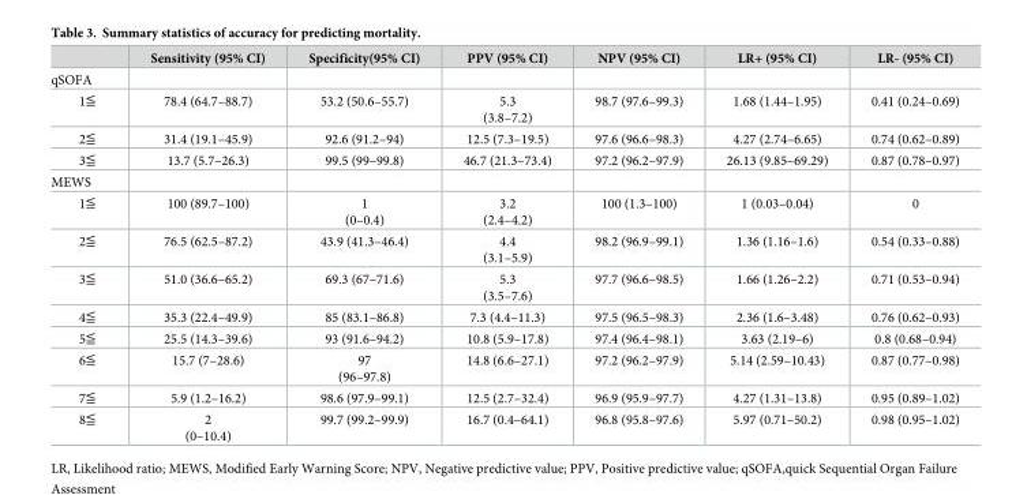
<table><thead><tr><td></td><td>Sensitivity (95% CI)</td><td>Specificity(95% CI)</td><td>PPV (95% CI)</td><td>NPV (95% CI)</td><td>LR+ (95% CI)</td><td>LR- (95% CI)</td></tr></thead><tbody><tr><td colspan="7">qSOFA</td></tr><tr><td>1≦</td><td>78.4 (64.7–88.7)</td><td>53.2 (50.6–55.7)</td><td>5.3 (3.8–7.2)</td><td>98.7 (97.6–99.3)</td><td>1.68 (1.44–1.95)</td><td>0.41 (0.24–0.69)</td></tr><tr><td>2≦</td><td>31.4 (19.1–45.9)</td><td>92.6 (91.2–94)</td><td>12.5 (7.3–19.5)</td><td>97.6 (96.6–98.3)</td><td>4.27 (2.74–6.65)</td><td>0.74 (0.62–0.89)</td></tr><tr><td>3≦</td><td>13.7 (5.7–26.3)</td><td>99.5 (99–99.8)</td><td>46.7 (21.3–73.4)</td><td>97.2 (96.2–97.9)</td><td>26.13 (9.85–69.29)</td><td>0.87 (0.78–0.97)</td></tr><tr><td colspan="7">MEWS</td></tr><tr><td>1≦</td><td>100 (89.7–100)</td><td>1 (0–0.4)</td><td>3.2 (2.4–4.2)</td><td>100 (1.3–100)</td><td>1 (0.03–0.04)</td><td>0</td></tr><tr><td>2≦</td><td>76.5 (62.5–87.2)</td><td>43.9 (41.3–46.4)</td><td>4.4 (3.1–5.9)</td><td>98.2 (96.9–99.1)</td><td>1.36 (1.16–1.6)</td><td>0.54 (0.33–0.88)</td></tr><tr><td>3≦</td><td>51.0 (36.6–65.2)</td><td>69.3 (67–71.6)</td><td>5.3 (3.5–7.6)</td><td>97.7 (96.6–98.5)</td><td>1.66 (1.26–2.2)</td><td>0.71 (0.53–0.94)</td></tr><tr><td>4≦</td><td>35.3 (22.4–49.9)</td><td>85 (83.1–86.8)</td><td>7.3 (4.4–11.3)</td><td>97.5 (96.5–98.3)</td><td>2.36 (1.6–3.48)</td><td>0.76 (0.62–0.93)</td></tr><tr><td>5≦</td><td>25.5 (14.3–39.6)</td><td>93 (91.6–94.2)</td><td>10.8 (5.9–17.8)</td><td>97.4 (96.4–98.1)</td><td>3.63 (2.19–6)</td><td>0.8 (0.68–0.94)</td></tr><tr><td>6≦</td><td>15.7 (7–28.6)</td><td>97 (96–97.8)</td><td>14.8 (6.6–27.1)</td><td>97.2 (96.2–97.9)</td><td>5.14 (2.59–10.43)</td><td>0.87 (0.77–0.98)</td></tr><tr><td>7≦</td><td>5.9 (1.2–16.2)</td><td>98.6 (97.9–99.1)</td><td>12.5 (2.7–32.4)</td><td>96.9 (95.9–97.7)</td><td>4.27 (1.31–13.8)</td><td>0.95 (0.89–1.02)</td></tr><tr><td>8≦</td><td>2 (0–10.4)</td><td>99.7 (99.2–99.9)</td><td>16.7 (0.4–64.1)</td><td>96.8 (95.8–97.6)</td><td>5.97 (0.71–50.2)</td><td>0.98 (0.95–1.02)</td></tr></tbody></table>